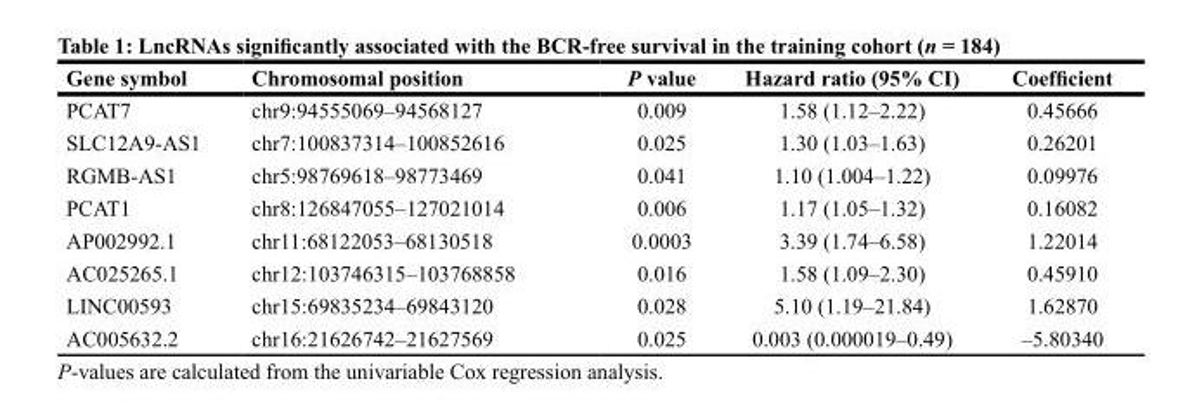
<table><thead><tr><td>Gene symbol</td><td>Chromosomal position</td><td>P value</td><td>Hazard ratio (95% CI)</td><td>Coefficient</td></tr></thead><tbody><tr><td>PCAT7</td><td>chr9:94555069–94568127</td><td>0.009</td><td>1.58 (1.12–2.22)</td><td>0.45666</td></tr><tr><td>SLC12A9-AS1</td><td>chr7:100837314–100852616</td><td>0.025</td><td>1.30 (1.03–1.63)</td><td>0.26201</td></tr><tr><td>RGMB-AS1</td><td>chr5:98769618–98773469</td><td>0.041</td><td>1.10 (1.004–1.22)</td><td>0.09976</td></tr><tr><td>PCAT1</td><td>chr8:126847055–127021014</td><td>0.006</td><td>1.17 (1.05–1.32)</td><td>0.16082</td></tr><tr><td>AP002992.1</td><td>chr11:68122053–68130518</td><td>0.0003</td><td>3.39 (1.74–6.58)</td><td>1.22014</td></tr><tr><td>AC025265.1</td><td>chr12:103746315–103768858</td><td>0.016</td><td>1.58 (1.09–2.30)</td><td>0.45910</td></tr><tr><td>LINC00593</td><td>chr15:69835234–69843120</td><td>0.028</td><td>5.10 (1.19–21.84)</td><td>1.62870</td></tr><tr><td>AC005632.2</td><td>chr16:21626742–21627569</td><td>0.025</td><td>0.003 (0.000019–0.49)</td><td>–5.80340</td></tr></tbody></table>